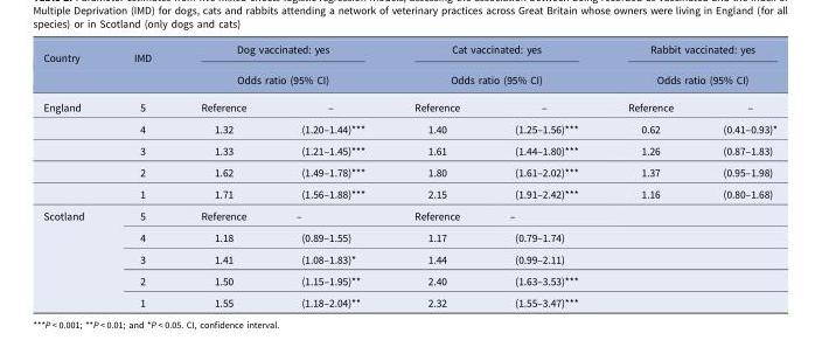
<table><thead><tr><td rowspan="3">Country England</td><td rowspan="3">IMD 5</td><td rowspan="2" colspan="2">Dog vaccinated: yes Odds ratio (95% CI)</td><td rowspan="2" colspan="2">Cat vaccinated: yes Odds ratio (95% CI)</td><td rowspan="2" colspan="2">Rabbit vaccinated: yes Odds ratio (95% CI)</td></tr><tr></tr><tr><td>Reference</td><td>–</td><td>Reference</td><td>–</td><td>Reference</td><td>–</td></tr></thead><tbody><tr><td></td><td>4</td><td>1.32</td><td>(1.20–1.44)***</td><td>1.40</td><td>(1.25–1.56)***</td><td>0.62</td><td>(0.41–0.93)*</td></tr><tr><td></td><td>3</td><td>1.33</td><td>(1.21–1.45)***</td><td>1.61</td><td>(1.44–1.80)***</td><td>1.26</td><td>(0.87–1.83)</td></tr><tr><td></td><td>2</td><td>1.62</td><td>(1.49–1.78)***</td><td>1.80</td><td>(1.61–2.02)***</td><td>1.37</td><td>(0.95–1.98)</td></tr><tr><td></td><td>1</td><td>1.71</td><td>(1.56–1.88)***</td><td>2.15</td><td>(1.91–2.42)***</td><td>1.16</td><td>(0.80–1.68)</td></tr><tr><td rowspan="5">Scotland</td><td>5</td><td>Reference</td><td>–</td><td>Reference</td><td>–</td><td></td><td></td></tr><tr><td>4</td><td>1.18</td><td>(0.89–1.55)</td><td>1.17</td><td>(0.79–1.74)</td><td></td><td></td></tr><tr><td>3</td><td>1.41</td><td>(1.08–1.83)*</td><td>1.44</td><td>(0.99–2.11)</td><td></td><td></td></tr><tr><td>2</td><td>1.50</td><td>(1.15–1.95)**</td><td>2.40</td><td>(1.63–3.53)***</td><td></td><td></td></tr><tr><td>1</td><td>1.55</td><td>(1.18–2.04)**</td><td>2.32</td><td>(1.55–3.47)***</td><td></td><td></td></tr></tbody></table>